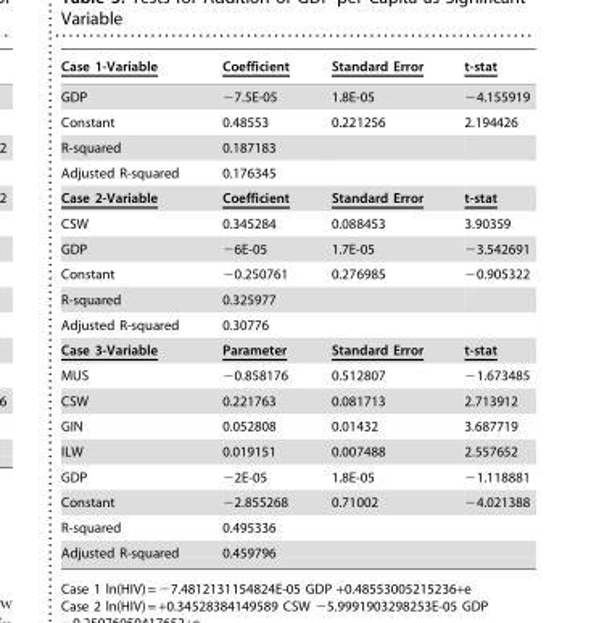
<table><thead><tr><td>Case 1-Variable</td><td>Coefficient</td><td>Standard Error</td><td>t-stat</td></tr></thead><tbody><tr><td>GDP</td><td>−7.5E-05</td><td>1.8E-05</td><td>−4.155919</td></tr><tr><td>Constant</td><td>0.48553</td><td>0.221256</td><td>2.194426</td></tr><tr><td>R-squared</td><td>0.187183</td><td></td><td></td></tr><tr><td>Adjusted R-squared</td><td>0.176345</td><td></td><td></td></tr><tr><td>Case 2-Variable</td><td>Coefficient</td><td>Standard Error</td><td>t-stat</td></tr><tr><td>CSW</td><td>0.345284</td><td>0.088453</td><td>3.90359</td></tr><tr><td>GDP</td><td>−6E-05</td><td>1.7E-05</td><td>−3.542691</td></tr><tr><td>Constant</td><td>−0.250761</td><td>0.276985</td><td>−0.905322</td></tr><tr><td>R-squared</td><td>0.325977</td><td></td><td></td></tr><tr><td>Adjusted R-squared</td><td>0.30776</td><td></td><td></td></tr><tr><td>Case 3-Variable</td><td>Parameter</td><td>Standard Error</td><td>t-stat</td></tr><tr><td>MUS</td><td>−0.858176</td><td>0.512807</td><td>−1.673485</td></tr><tr><td>CSW</td><td>0.221763</td><td>0.081713</td><td>2.713912</td></tr><tr><td>GIN</td><td>0.052808</td><td>0.01432</td><td>3.687719</td></tr><tr><td>ILW</td><td>0.019151</td><td>0.007488</td><td>2.557652</td></tr><tr><td>GDP</td><td>−2E-05</td><td>1.8E-05</td><td>−1.118881</td></tr><tr><td>Constant</td><td>−2.855268</td><td>0.71002</td><td>−4.021388</td></tr><tr><td>R-squared</td><td>0.495336</td><td></td><td></td></tr><tr><td>Adjusted R-squared</td><td>0.459796</td><td></td><td></td></tr></tbody></table>